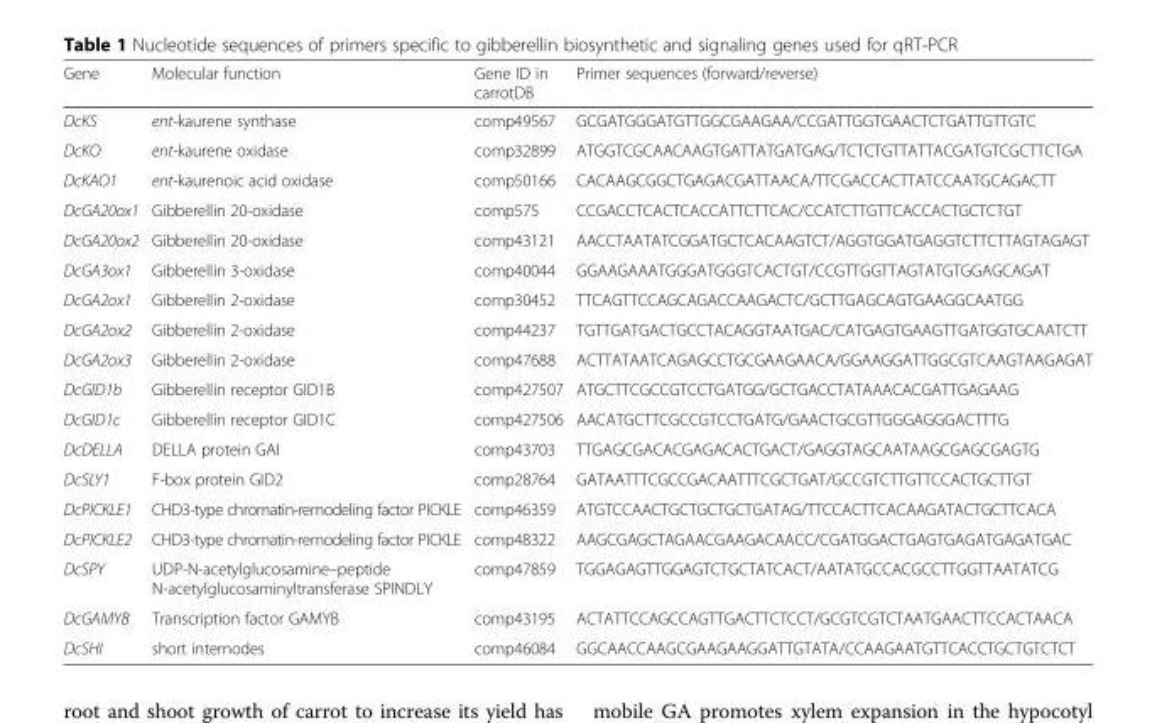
<table><thead><tr><td>Gene</td><td>Molecular function</td><td>Gene ID in carrotDB</td><td>Primer sequences (forward/reverse)</td></tr></thead><tbody><tr><td>DcKS</td><td>ent-kaurene synthase</td><td>comp49567</td><td>GCGATGGGATGTTGGCGAAGAA/CCGATTGGTGAACTCTGATTGTTGTC</td></tr><tr><td>DcKO</td><td>ent-kaurene oxidase</td><td>comp32899</td><td>ATGGTCGCAACAAGTGATTATGATGAG/TCTCTGTTATTACGATGTCGCTTCTGA</td></tr><tr><td>DcKAO1</td><td>ent-kaurenoic acid oxidase</td><td>comp50166</td><td>CACAAGCGGCTGAGACGATTAACA/TTCGACCACTTATCCAATGCAGACTT</td></tr><tr><td>DcGA20ox1</td><td>Gibberellin 20-oxidase</td><td>comp575</td><td>CCGACCTCACTCACCATTCTTCAC/CCATCTTGTTCACCACTGCTCTGT</td></tr><tr><td>DcGA20ox2</td><td>Gibberellin 20-oxidase</td><td>comp43121</td><td>AACCTAATATCGGATGCTCACAAGTCT/AGGTGGATGAGGTCTTCTTAGTAGAGT</td></tr><tr><td>DcGA3ox1</td><td>Gibberellin 3-oxidase</td><td>comp40044</td><td>GGAAGAAATGGGATGGGTCACTGT/CCGTTGGTTAGTATGTGGAGCAGAT</td></tr><tr><td>DcGA2ox1</td><td>Gibberellin 2-oxidase</td><td>comp30452</td><td>TTCAGTTCCAGCAGACCAAGACTC/GCTTGAGCAGTGAAGGCAATGG</td></tr><tr><td>DcGA2ox2</td><td>Gibberellin 2-oxidase</td><td>comp44237</td><td>TGTTGATGACTGCCTACAGGTAATGAC/CATGAGTGAAGTTGATGGTGCAATCTT</td></tr><tr><td>DcGA2ox3</td><td>Gibberellin 2-oxidase</td><td>comp47688</td><td>ACTTATAATCAGAGCCTGCGAAGAACA/GGAAGGATTGGCGTCAAGTAAGAGAT</td></tr><tr><td>DcGID1b</td><td>Gibberellin receptor GID1B</td><td>comp427507</td><td>ATGCTTCGCCGTCCTGATGG/GCTGACCTATAAACACGATTGAGAAG</td></tr><tr><td>DcGID1c</td><td>Gibberellin receptor GID1C</td><td>comp427506</td><td>AACATGCTTCGCCGTCCTGATG/GAACTGCGTTGGGAGGGACTTTG</td></tr><tr><td>DcDELLA</td><td>DELLA protein GAI</td><td>comp43703</td><td>TTGAGCGACACGAGACACTGACT/GAGGTAGCAATAAGCGAGCGAGTG</td></tr><tr><td>DcSLY1</td><td>F-box protein GID2</td><td>comp28764</td><td>GATAATTTCGCCGACAATTTCGCTGAT/GCCGTCTTGTTCCACTGCTTGT</td></tr><tr><td>DcPICKLE1</td><td>CHD3-type chromatin-remodeling factor PICKLE</td><td>comp46359</td><td>ATGTCCAACTGCTGCTGCTGATAG/TTCCACTTCACAAGATACTGCTTCACA</td></tr><tr><td>DcPICKLE2</td><td>CHD3-type chromatin-remodeling factor PICKLE</td><td>comp48322</td><td>AAGCGAGCTAGAACGAAGACAACC/CGATGGACTGAGTGAGATGAGATGAC</td></tr><tr><td>DcSPY</td><td>UDP-N-acetylglucosamine–peptide N-acetylglucosaminyltransferase SPINDLY</td><td>comp47859</td><td>TGGAGAGTTGGAGTCTGCTATCACT/AATATGCCACGCCTTGGTTAATATCG</td></tr><tr><td>DcGAMYB</td><td>Transcription factor GAMYB</td><td>comp43195</td><td>ACTATTCCAGCCAGTTGACTTCTCCT/GCGTCGTCTAATGAACTTCCACTAACA</td></tr><tr><td>DcSHI</td><td>short internodes</td><td>comp46084</td><td>GGCAACCAAGCGAAGAAGGATTGTATA/CCAAGAATGTTCACCTGCTGTCTCT</td></tr></tbody></table>